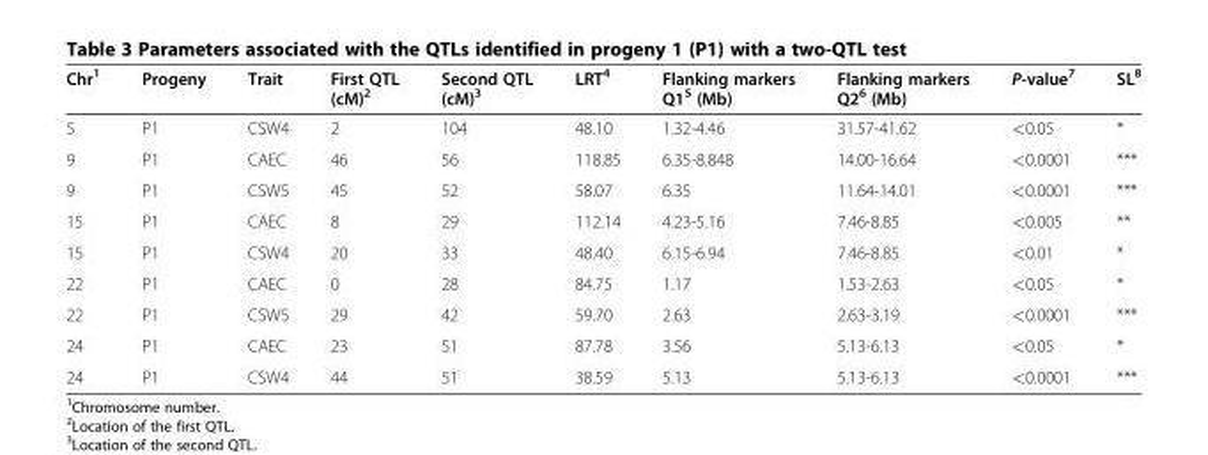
<table><thead><tr><td>Chr<sup>1</sup></td><td>Progeny</td><td>Trait</td><td>First QTL (cM)<sup>2</sup></td><td>Second QTL (cM)<sup>3</sup></td><td>LRT<sup>4</sup></td><td>Flanking markers Q1<sup>5</sup> (Mb)</td><td>Flanking markers Q2<sup>6</sup> (Mb)</td><td>P-value<sup>7</sup></td><td>SL<sup>8</sup></td></tr></thead><tbody><tr><td>5</td><td>P1</td><td>CSW4</td><td>2</td><td>104</td><td>48.10</td><td>1.32-4.46</td><td>31.57-41.62</td><td>&lt;0.05</td><td>*</td></tr><tr><td>9</td><td>P1</td><td>CAEC</td><td>46</td><td>56</td><td>118.85</td><td>6.35-8.848</td><td>14.00-16.64</td><td>&lt;0.0001</td><td>***</td></tr><tr><td>9</td><td>P1</td><td>CSW5</td><td>45</td><td>52</td><td>58.07</td><td>6.35</td><td>11.64-14.01</td><td>&lt;0.0001</td><td>***</td></tr><tr><td>15</td><td>P1</td><td>CAEC</td><td>8</td><td>29</td><td>112.14</td><td>4.23-5.16</td><td>7.46-8.85</td><td>&lt;0.005</td><td>**</td></tr><tr><td>15</td><td>P1</td><td>CSW4</td><td>20</td><td>33</td><td>48.40</td><td>6.15-6.94</td><td>7.46-8.85</td><td>&lt;0.01</td><td>*</td></tr><tr><td>22</td><td>P1</td><td>CAEC</td><td>0</td><td>28</td><td>84.75</td><td>1.17</td><td>1.53-2.63</td><td>&lt;0.05</td><td>*</td></tr><tr><td>22</td><td>P1</td><td>CSW5</td><td>29</td><td>42</td><td>59.70</td><td>2.63</td><td>2.63-3.19</td><td>&lt;0.0001</td><td>***</td></tr><tr><td>24</td><td>P1</td><td>CAEC</td><td>23</td><td>51</td><td>87.78</td><td>3.56</td><td>5.13-6.13</td><td>&lt;0.05</td><td>*</td></tr><tr><td>24</td><td>P1</td><td>CSW4</td><td>44</td><td>51</td><td>38.59</td><td>5.13</td><td>5.13-6.13</td><td>&lt;0.0001</td><td>***</td></tr></tbody></table>